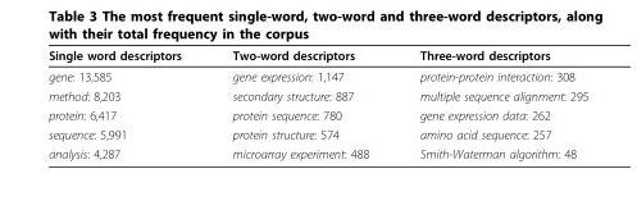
<table><thead><tr><td>Single word descriptors</td><td>Two-word descriptors</td><td>Three-word descriptors</td></tr></thead><tbody><tr><td>gene: 13,585</td><td>gene expression: 1,147</td><td>protein-protein interaction: 308</td></tr><tr><td>method: 8,203</td><td>secondary structure: 887</td><td>multiple sequence alignment: 295</td></tr><tr><td>protein: 6,417</td><td>protein sequence: 780</td><td>gene expression data: 262</td></tr><tr><td>sequence: 5,991</td><td>protein structure: 574</td><td>amino acid sequence: 257</td></tr><tr><td>analysis: 4,287</td><td>microarray experiment: 488</td><td>Smith-Waterman algorithm: 48</td></tr></tbody></table>